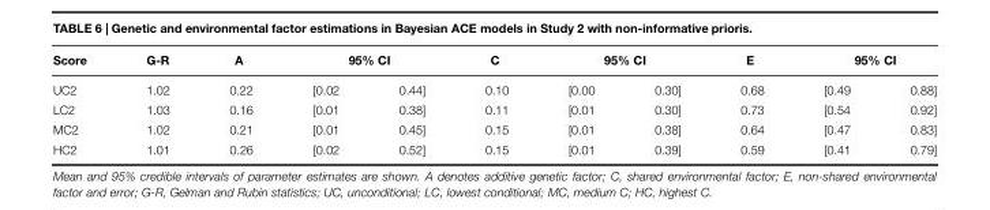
<table><thead><tr><td rowspan="2">Score UC2</td><td rowspan="2">G-R 1.02</td><td rowspan="2">A 0.22</td><td colspan="2">95% CI</td><td rowspan="2">C 0.10</td><td colspan="2">95% CI</td><td rowspan="2">E 0.68</td><td colspan="2">95% CI</td></tr><tr><td>[0.02</td><td>0.44]</td><td>[0.00</td><td>0.30]</td><td>[0.49</td><td>0.88]</td></tr></thead><tbody><tr><td>LC2</td><td>1.03</td><td>0.16</td><td>[0.01</td><td>0.38]</td><td>0.11</td><td>[0.01</td><td>0.30]</td><td>0.73</td><td>[0.54</td><td>0.92]</td></tr><tr><td>MC2</td><td>1.02</td><td>0.21</td><td>[0.01</td><td>0.45]</td><td>0.15</td><td>[0.01</td><td>0.38]</td><td>0.64</td><td>[0.47</td><td>0.83]</td></tr><tr><td>HC2</td><td>1.01</td><td>0.26</td><td>[0.02</td><td>0.52]</td><td>0.15</td><td>[0.01</td><td>0.39]</td><td>0.59</td><td>[0.41</td><td>0.79]</td></tr></tbody></table>